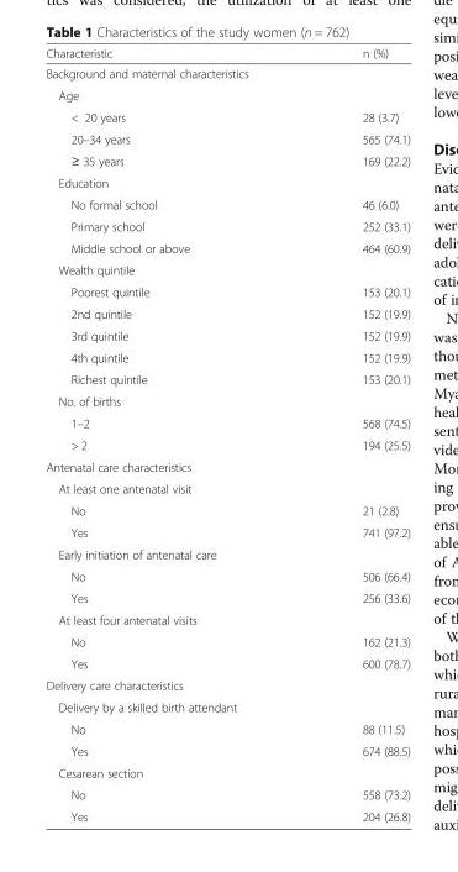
<table><thead><tr><td>Characteristic</td><td>n (%)</td></tr></thead><tbody><tr><td colspan="2">Background and maternal characteristics</td></tr><tr><td colspan="2">Age</td></tr><tr><td>&lt; 20 years</td><td>28 (3.7)</td></tr><tr><td>20–34 years</td><td>565 (74.1)</td></tr><tr><td>≥ 35 years</td><td>169 (22.2)</td></tr><tr><td colspan="2">Education</td></tr><tr><td>No formal school</td><td>46 (6.0)</td></tr><tr><td>Primary school</td><td>252 (33.1)</td></tr><tr><td>Middle school or above</td><td>464 (60.9)</td></tr><tr><td colspan="2">Wealth quintile</td></tr><tr><td>Poorest quintile</td><td>153 (20.1)</td></tr><tr><td>2nd quintile</td><td>152 (19.9)</td></tr><tr><td>3rd quintile</td><td>152 (19.9)</td></tr><tr><td>4th quintile</td><td>152 (19.9)</td></tr><tr><td>Richest quintile</td><td>153 (20.1)</td></tr><tr><td colspan="2">No. of births</td></tr><tr><td>1–2</td><td>568 (74.5)</td></tr><tr><td>&gt; 2</td><td>194 (25.5)</td></tr><tr><td colspan="2">Antenatal care characteristics</td></tr><tr><td colspan="2">At least one antenatal visit</td></tr><tr><td>No</td><td>21 (2.8)</td></tr><tr><td>Yes</td><td>741 (97.2)</td></tr><tr><td colspan="2">Early initiation of antenatal care</td></tr><tr><td>No</td><td>506 (66.4)</td></tr><tr><td>Yes</td><td>256 (33.6)</td></tr><tr><td colspan="2">At least four antenatal visits</td></tr><tr><td>No</td><td>162 (21.3)</td></tr><tr><td>Yes</td><td>600 (78.7)</td></tr><tr><td colspan="2">Delivery care characteristics</td></tr><tr><td colspan="2">Delivery by a skilled birth attendant</td></tr><tr><td>No</td><td>88 (11.5)</td></tr><tr><td>Yes</td><td>674 (88.5)</td></tr><tr><td colspan="2">Cesarean section</td></tr><tr><td>No</td><td>558 (73.2)</td></tr><tr><td>Yes</td><td>204 (26.8)</td></tr></tbody></table>